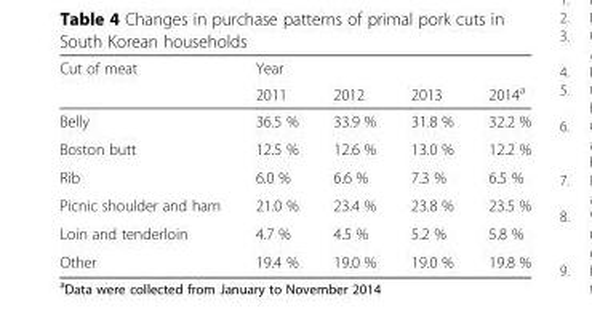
<table><thead><tr><td rowspan="2">Cut of meat</td><td colspan="4">Year</td></tr><tr><td>2011</td><td>2012</td><td>2013</td><td>2014<sup>a</sup></td></tr></thead><tbody><tr><td>Belly</td><td>36.5 %</td><td>33.9 %</td><td>31.8 %</td><td>32.2 %</td></tr><tr><td>Boston butt</td><td>12.5 %</td><td>12.6 %</td><td>13.0 %</td><td>12.2 %</td></tr><tr><td>Rib</td><td>6.0 %</td><td>6.6 %</td><td>7.3 %</td><td>6.5 %</td></tr><tr><td>Picnic shoulder and ham</td><td>21.0 %</td><td>23.4 %</td><td>23.8 %</td><td>23.5 %</td></tr><tr><td>Loin and tenderloin</td><td>4.7 %</td><td>4.5 %</td><td>5.2 %</td><td>5.8 %</td></tr><tr><td>Other</td><td>19.4 %</td><td>19.0 %</td><td>19.0 %</td><td>19.8 %</td></tr></tbody></table>